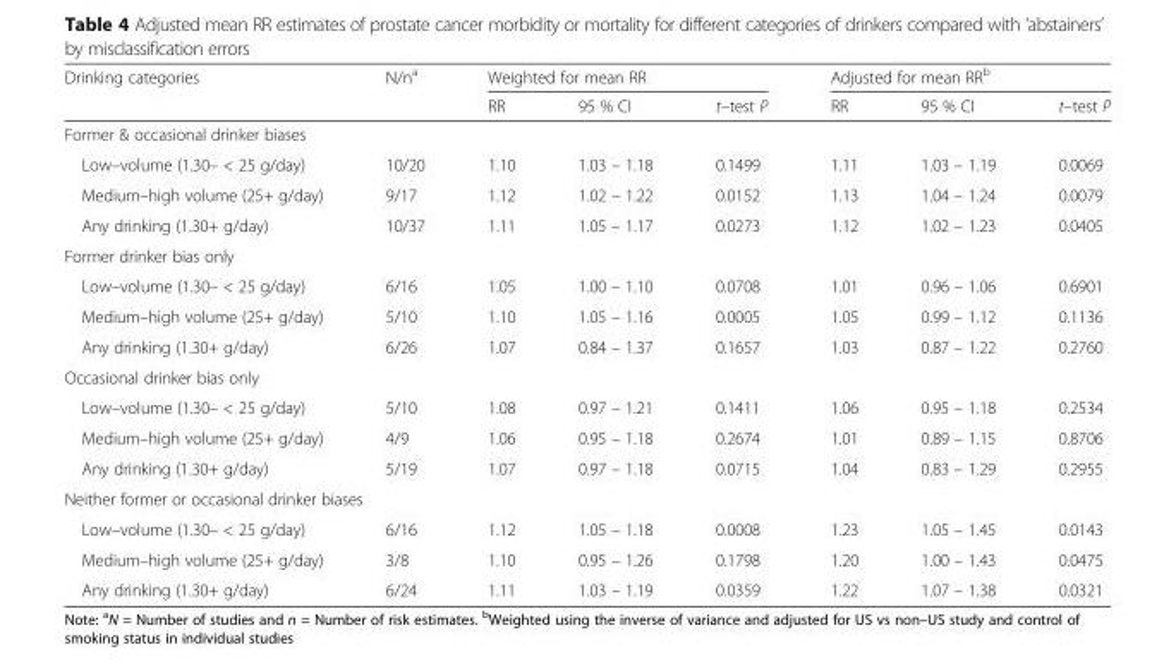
<table><thead><tr><td rowspan="2">Drinking categories</td><td rowspan="2">N/n<sup>a</sup></td><td colspan="3">Weighted for mean RR</td><td colspan="3">Adjusted for mean RR<sup>b</sup></td></tr><tr><td>RR</td><td>95 % CI</td><td>t–test P</td><td>RR</td><td>95 % CI</td><td>t–test P</td></tr></thead><tbody><tr><td colspan="8">Former &amp; occasional drinker biases</td></tr><tr><td>Low–volume (1.30– &lt; 25 g/day)</td><td>10/20</td><td>1.10</td><td>1.03 – 1.18</td><td>0.1499</td><td>1.11</td><td>1.03 – 1.19</td><td>0.0069</td></tr><tr><td>Medium–high volume (25+ g/day)</td><td>9/17</td><td>1.12</td><td>1.02 – 1.22</td><td>0.0152</td><td>1.13</td><td>1.04 – 1.24</td><td>0.0079</td></tr><tr><td>Any drinking (1.30+ g/day)</td><td>10/37</td><td>1.11</td><td>1.05 – 1.17</td><td>0.0273</td><td>1.12</td><td>1.02 – 1.23</td><td>0.0405</td></tr><tr><td colspan="8">Former drinker bias only</td></tr><tr><td>Low–volume (1.30– &lt; 25 g/day)</td><td>6/16</td><td>1.05</td><td>1.00 – 1.10</td><td>0.0708</td><td>1.01</td><td>0.96 – 1.06</td><td>0.6901</td></tr><tr><td>Medium–high volume (25+ g/day)</td><td>5/10</td><td>1.10</td><td>1.05 – 1.16</td><td>0.0005</td><td>1.05</td><td>0.99 – 1.12</td><td>0.1136</td></tr><tr><td>Any drinking (1.30+ g/day)</td><td>6/26</td><td>1.07</td><td>0.84 – 1.37</td><td>0.1657</td><td>1.03</td><td>0.87 – 1.22</td><td>0.2760</td></tr><tr><td colspan="8">Occasional drinker bias only</td></tr><tr><td>Low–volume (1.30– &lt; 25 g/day)</td><td>5/10</td><td>1.08</td><td>0.97 – 1.21</td><td>0.1411</td><td>1.06</td><td>0.95 – 1.18</td><td>0.2534</td></tr><tr><td>Medium–high volume (25+ g/day)</td><td>4/9</td><td>1.06</td><td>0.95 – 1.18</td><td>0.2674</td><td>1.01</td><td>0.89 – 1.15</td><td>0.8706</td></tr><tr><td>Any drinking (1.30+ g/day)</td><td>5/19</td><td>1.07</td><td>0.97 – 1.18</td><td>0.0715</td><td>1.04</td><td>0.83 – 1.29</td><td>0.2955</td></tr><tr><td colspan="8">Neither former or occasional drinker biases</td></tr><tr><td>Low–volume (1.30– &lt; 25 g/day)</td><td>6/16</td><td>1.12</td><td>1.05 – 1.18</td><td>0.0008</td><td>1.23</td><td>1.05 – 1.45</td><td>0.0143</td></tr><tr><td>Medium–high volume (25+ g/day)</td><td>3/8</td><td>1.10</td><td>0.95 – 1.26</td><td>0.1798</td><td>1.20</td><td>1.00 – 1.43</td><td>0.0475</td></tr><tr><td>Any drinking (1.30+ g/day)</td><td>6/24</td><td>1.11</td><td>1.03 – 1.19</td><td>0.0359</td><td>1.22</td><td>1.07 – 1.38</td><td>0.0321</td></tr></tbody></table>